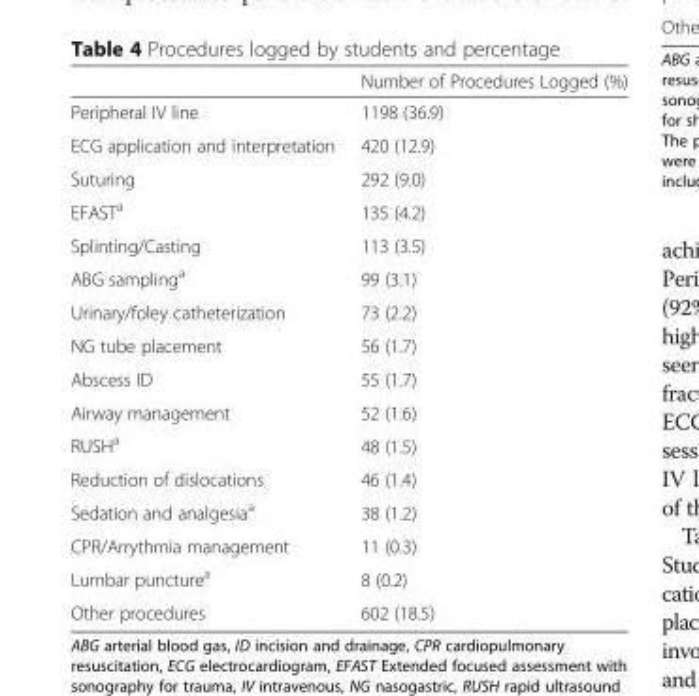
<table><thead><tr><td></td><td>Number of Procedures Logged (%)</td></tr></thead><tbody><tr><td>Peripheral IV line</td><td>1198 (36.9)</td></tr><tr><td>ECG application and interpretation</td><td>420 (12.9)</td></tr><tr><td>Suturing</td><td>292 (9.0)</td></tr><tr><td>EFAST<sup>a</sup></td><td>135 (4.2)</td></tr><tr><td>Splinting/Casting</td><td>113 (3.5)</td></tr><tr><td>ABG sampling<sup>a</sup></td><td>99 (3.1)</td></tr><tr><td>Urinary/foley catheterization</td><td>73 (2.2)</td></tr><tr><td>NG tube placement</td><td>56 (1.7)</td></tr><tr><td>Abscess ID</td><td>55 (1.7)</td></tr><tr><td>Airway management</td><td>52 (1.6)</td></tr><tr><td>RUSH<sup>a</sup></td><td>48 (1.5)</td></tr><tr><td>Reduction of dislocations</td><td>46 (1.4)</td></tr><tr><td>Sedation and analgesia<sup>a</sup></td><td>38 (1.2)</td></tr><tr><td>CPR/Arrythmia management</td><td>11 (0.3)</td></tr><tr><td>Lumbar puncture<sup>a</sup></td><td>8 (0.2)</td></tr><tr><td>Other procedures</td><td>602 (18.5)</td></tr></tbody></table>